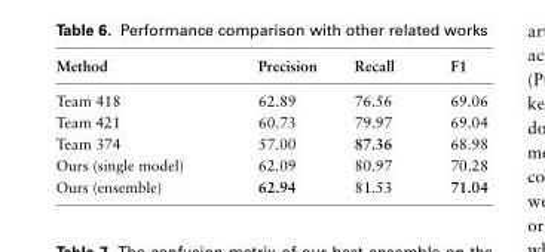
<table><thead><tr><td>Method</td><td>Precision</td><td>Recall</td><td>F1</td></tr></thead><tbody><tr><td>Team 418</td><td>62.89</td><td>76.56</td><td>69.06</td></tr><tr><td>Team 421</td><td>60.73</td><td>79.97</td><td>69.04</td></tr><tr><td>Team 374</td><td>57.00</td><td>87.36</td><td>68.98</td></tr><tr><td>Ours (single model)</td><td>62.09</td><td>80.97</td><td>70.28</td></tr><tr><td>Ours (ensemble)</td><td>62.94</td><td>81.53</td><td>71.04</td></tr></tbody></table>